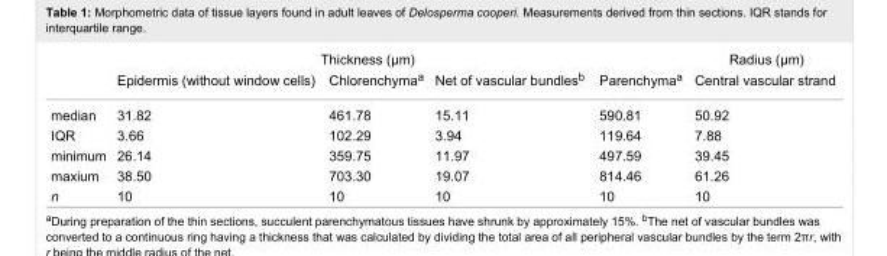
<table><tbody><tr><td colspan="5">Thickness (µm)</td><td>Radius (µm)</td></tr><tr><td></td><td>Epidermis (without window cells)</td><td>Chlorenchyma<sup>a</sup></td><td>Net of vascular bundles<sup>b</sup></td><td>Parenchyma<sup>a</sup></td><td>Central vascular strand</td></tr><tr><td>median</td><td>31.82</td><td>461.78</td><td>15.11</td><td>590.81</td><td>50.92</td></tr><tr><td>IQR</td><td>3.66</td><td>102.29</td><td>3.94</td><td>119.64</td><td>7.88</td></tr><tr><td>minimum</td><td>26.14</td><td>359.75</td><td>11.97</td><td>497.59</td><td>39.45</td></tr><tr><td>maxium</td><td>38.50</td><td>703.30</td><td>19.07</td><td>814.46</td><td>61.26</td></tr><tr><td>n</td><td>10</td><td>10</td><td>10</td><td>10</td><td>10</td></tr></tbody></table>